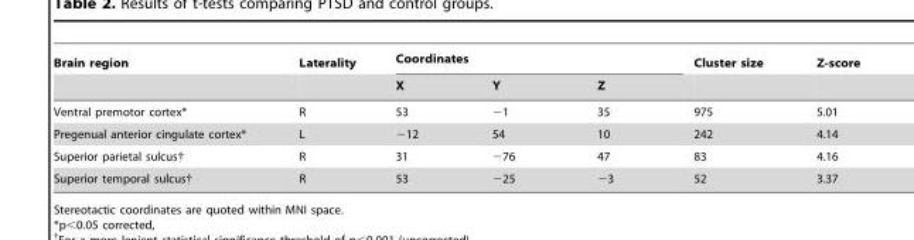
<table><thead><tr><td rowspan="2">Brain region</td><td rowspan="2">Laterality</td><td colspan="3">Coordinates</td><td rowspan="2">Cluster size</td><td rowspan="2">Z-score</td></tr><tr><td>X</td><td>Y</td><td>Z</td></tr></thead><tbody><tr><td>Ventral premotor cortex*</td><td>R</td><td>53</td><td>−1</td><td>35</td><td>975</td><td>5.01</td></tr><tr><td>Pregenual anterior cingulate cortex*</td><td>L</td><td>−12</td><td>54</td><td>10</td><td>242</td><td>4.14</td></tr><tr><td>Superior parietal sulcus†</td><td>R</td><td>31</td><td>−76</td><td>47</td><td>83</td><td>4.16</td></tr><tr><td>Superior temporal sulcus†</td><td>R</td><td>53</td><td>−25</td><td>−3</td><td>52</td><td>3.37</td></tr></tbody></table>